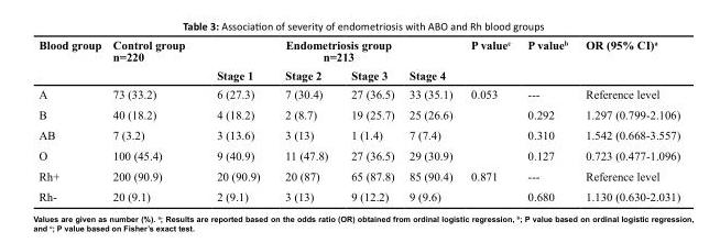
<table><thead><tr><td rowspan="2">Blood group</td><td rowspan="2">Control group n=220</td><td colspan="4">Endometriosis group n=213</td><td rowspan="2">P value<sup>c</sup></td><td rowspan="2">P value<sup>b</sup></td><td rowspan="2">OR (95% CI)<sup>a</sup></td></tr><tr><td>Stage 1</td><td>Stage 2</td><td>Stage 3</td><td>Stage 4</td></tr></thead><tbody><tr><td>A</td><td>73 (33.2)</td><td>6 (27.3)</td><td>7 (30.4)</td><td>27 (36.5)</td><td>33 (35.1)</td><td rowspan="4">0.053</td><td>---</td><td>Reference level</td></tr><tr><td>B</td><td>40 (18.2)</td><td>4 (18.2)</td><td>2 (8.7)</td><td>19 (25.7)</td><td>25 (26.6)</td><td>0.292</td><td>1.297 (0.799-2.106)</td></tr><tr><td>AB</td><td>7 (3.2)</td><td>3 (13.6)</td><td>3 (13)</td><td>1 (1.4)</td><td>7 (7.4)</td><td>0.310</td><td>1.542 (0.668-3.557)</td></tr><tr><td>O</td><td>100 (45.4)</td><td>9 (40.9)</td><td>11 (47.8)</td><td>27 (36.5)</td><td>29 (30.9)</td><td>0.127</td><td>0.723 (0.477-1.096)</td></tr><tr><td>Rh+</td><td>200 (90.9)</td><td>20 (90.9)</td><td>20 (87)</td><td>65 (87.8)</td><td>85 (90.4)</td><td rowspan="2">0.871</td><td>---</td><td>Reference level</td></tr><tr><td>Rh-</td><td>20 (9.1)</td><td>2 (9.1)</td><td>3 (13)</td><td>9 (12.2)</td><td>9 (9.6)</td><td>0.680</td><td>1.130 (0.630-2.031)</td></tr></tbody></table>